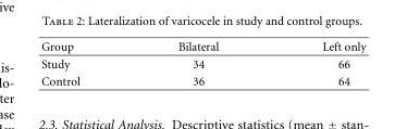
<table><thead><tr><td>Group</td><td>Bilateral</td><td>Left only</td></tr></thead><tbody><tr><td>Study</td><td>34</td><td>66</td></tr><tr><td>Control</td><td>36</td><td>64</td></tr></tbody></table>